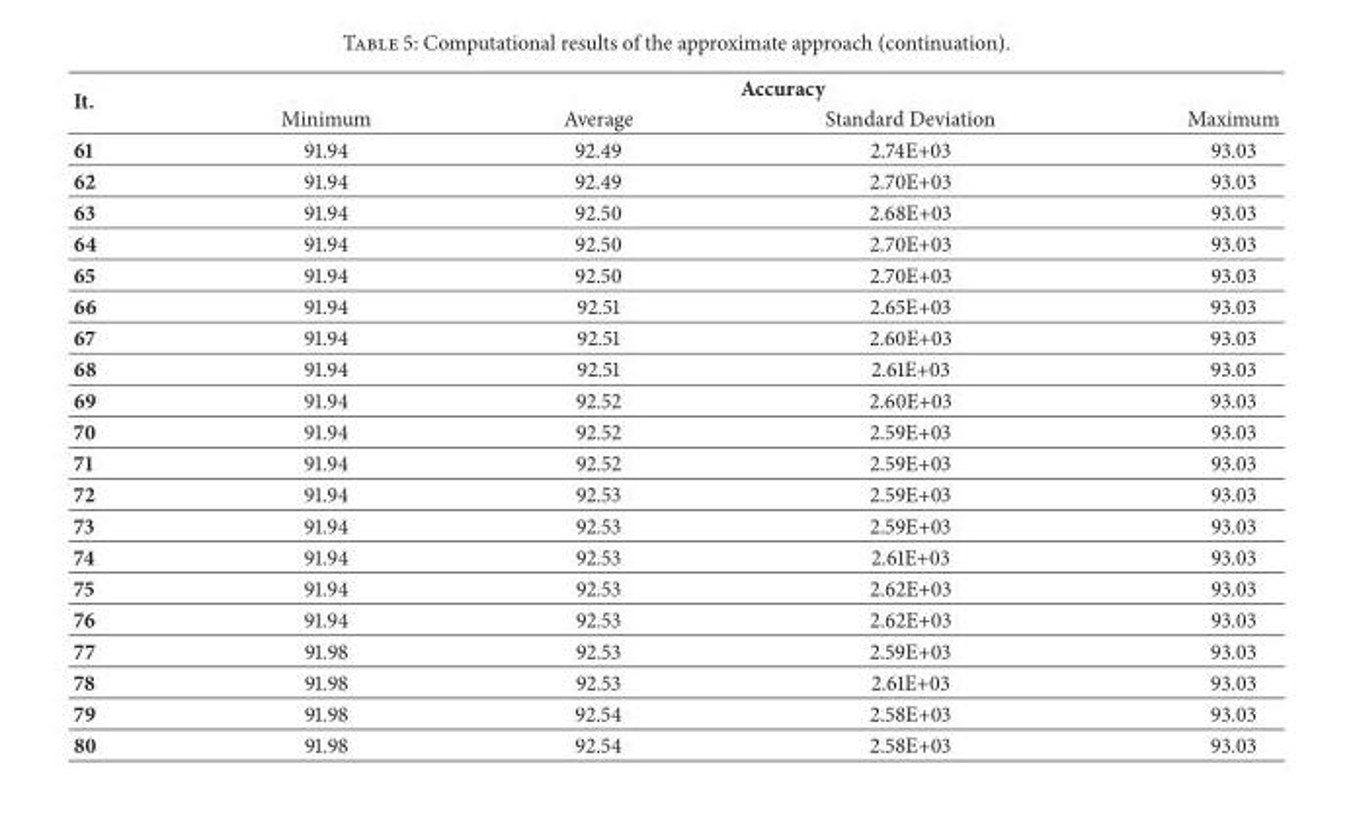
<table><thead><tr><td rowspan="2">It.</td><td colspan="4">Accuracy</td></tr><tr><td>Minimum</td><td>Average</td><td>Standard Deviation</td><td>Maximum</td></tr></thead><tbody><tr><td>61</td><td>91.94</td><td>92.49</td><td>2.74E+03</td><td>93.03</td></tr><tr><td>62</td><td>91.94</td><td>92.49</td><td>2.70E+03</td><td>93.03</td></tr><tr><td>63</td><td>91.94</td><td>92.50</td><td>2.68E+03</td><td>93.03</td></tr><tr><td>64</td><td>91.94</td><td>92.50</td><td>2.70E+03</td><td>93.03</td></tr><tr><td>65</td><td>91.94</td><td>92.50</td><td>2.70E+03</td><td>93.03</td></tr><tr><td>66</td><td>91.94</td><td>92.51</td><td>2.65E+03</td><td>93.03</td></tr><tr><td>67</td><td>91.94</td><td>92.51</td><td>2.60E+03</td><td>93.03</td></tr><tr><td>68</td><td>91.94</td><td>92.51</td><td>2.61E+03</td><td>93.03</td></tr><tr><td>69</td><td>91.94</td><td>92.52</td><td>2.60E+03</td><td>93.03</td></tr><tr><td>70</td><td>91.94</td><td>92.52</td><td>2.59E+03</td><td>93.03</td></tr><tr><td>71</td><td>91.94</td><td>92.52</td><td>2.59E+03</td><td>93.03</td></tr><tr><td>72</td><td>91.94</td><td>92.53</td><td>2.59E+03</td><td>93.03</td></tr><tr><td>73</td><td>91.94</td><td>92.53</td><td>2.59E+03</td><td>93.03</td></tr><tr><td>74</td><td>91.94</td><td>92.53</td><td>2.61E+03</td><td>93.03</td></tr><tr><td>75</td><td>91.94</td><td>92.53</td><td>2.62E+03</td><td>93.03</td></tr><tr><td>76</td><td>91.94</td><td>92.53</td><td>2.62E+03</td><td>93.03</td></tr><tr><td>77</td><td>91.98</td><td>92.53</td><td>2.59E+03</td><td>93.03</td></tr><tr><td>78</td><td>91.98</td><td>92.53</td><td>2.61E+03</td><td>93.03</td></tr><tr><td>79</td><td>91.98</td><td>92.54</td><td>2.58E+03</td><td>93.03</td></tr><tr><td>80</td><td>91.98</td><td>92.54</td><td>2.58E+03</td><td>93.03</td></tr></tbody></table>